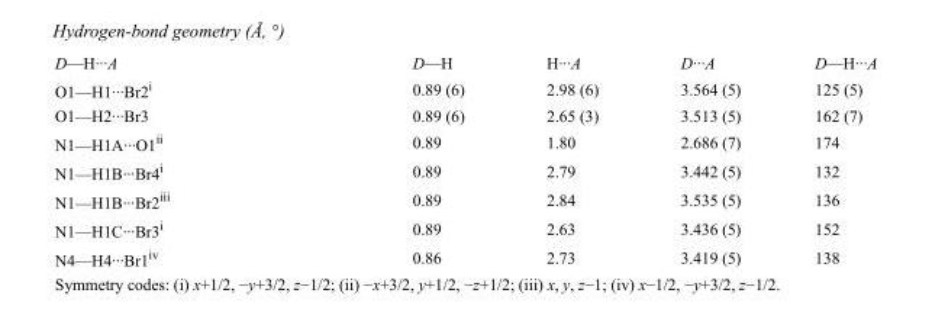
<table><tbody><tr><td>D—H···A</td><td>D—H</td><td>H···A</td><td>D···A</td><td>D—H···A</td></tr><tr><td>O1—H1···Br2<sup>i</sup></td><td>0.89 (6)</td><td>2.98 (6)</td><td>3.564 (5)</td><td>125 (5)</td></tr><tr><td>O1—H2···Br3</td><td>0.89 (6)</td><td>2.65 (3)</td><td>3.513 (5)</td><td>162 (7)</td></tr><tr><td>N1—H1A···O1<sup>ii</sup></td><td>0.89</td><td>1.80</td><td>2.686 (7)</td><td>174</td></tr><tr><td>N1—H1B···Br4<sup>i</sup></td><td>0.89</td><td>2.79</td><td>3.442 (5)</td><td>132</td></tr><tr><td>N1—H1B···Br2<sup>iii</sup></td><td>0.89</td><td>2.84</td><td>3.535 (5)</td><td>136</td></tr><tr><td>N1—H1C···Br3<sup>i</sup></td><td>0.89</td><td>2.63</td><td>3.436 (5)</td><td>152</td></tr><tr><td>N4—H4···Br1<sup>iv</sup></td><td>0.86</td><td>2.73</td><td>3.419 (5)</td><td>138</td></tr></tbody></table>